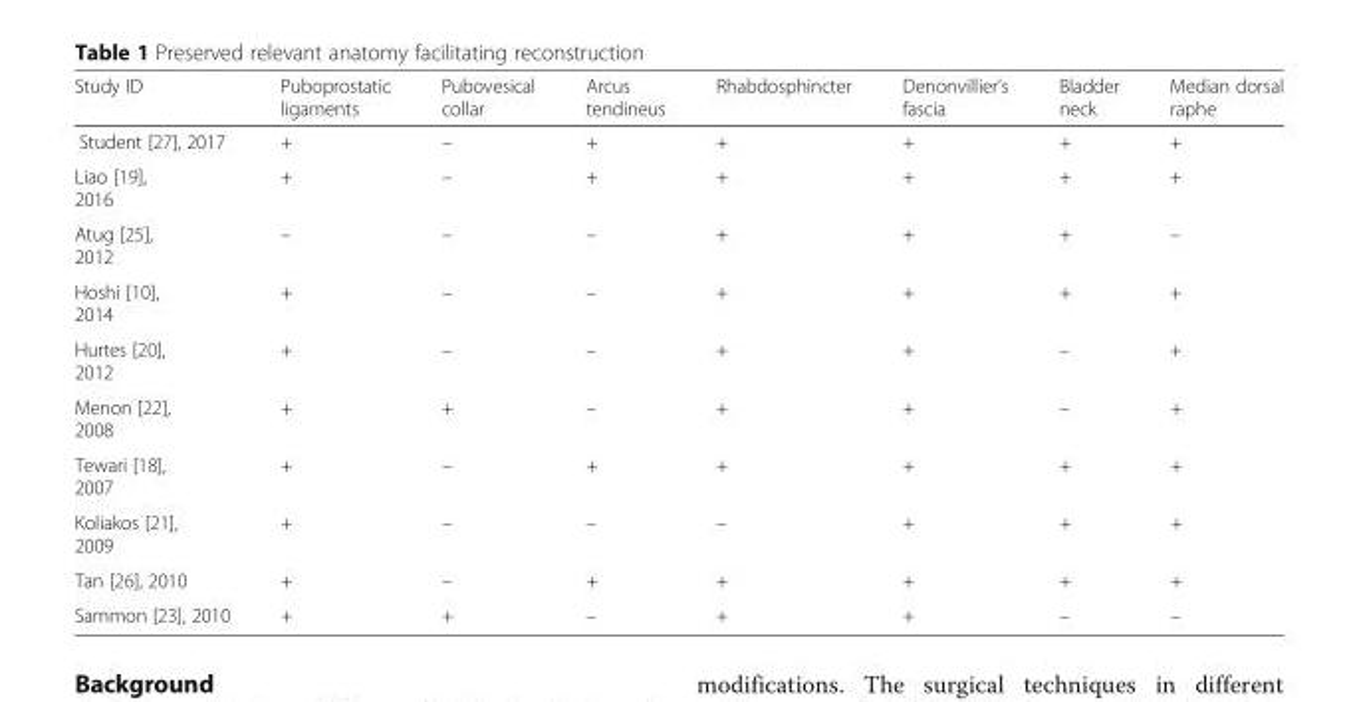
<table><thead><tr><td>Study ID</td><td>Puboprostatic ligaments</td><td>Pubovesical collar</td><td>Arcus tendineus</td><td>Rhabdosphincter</td><td>Denonvillier’s fascia</td><td>Bladder neck</td><td>Median dorsal raphe</td></tr></thead><tbody><tr><td>Student [27], 2017</td><td>+</td><td>–</td><td>+</td><td>+</td><td>+</td><td>+</td><td>+</td></tr><tr><td>Liao [19], 2016</td><td>+</td><td>–</td><td>+</td><td>+</td><td>+</td><td>+</td><td>+</td></tr><tr><td>Atug [25], 2012</td><td>–</td><td>–</td><td>–</td><td>+</td><td>+</td><td>+</td><td>–</td></tr><tr><td>Hoshi [10], 2014</td><td>+</td><td>–</td><td>–</td><td>+</td><td>+</td><td>+</td><td>+</td></tr><tr><td>Hurtes [20], 2012</td><td>+</td><td>–</td><td>–</td><td>+</td><td>+</td><td>–</td><td>+</td></tr><tr><td>Menon [22], 2008</td><td>+</td><td>+</td><td>–</td><td>+</td><td>+</td><td>–</td><td>+</td></tr><tr><td>Tewari [18], 2007</td><td>+</td><td>–</td><td>+</td><td>+</td><td>+</td><td>+</td><td>+</td></tr><tr><td>Koliakos [21], 2009</td><td>+</td><td>–</td><td>–</td><td>–</td><td>+</td><td>+</td><td>+</td></tr><tr><td>Tan [26], 2010</td><td>+</td><td>–</td><td>+</td><td>+</td><td>+</td><td>+</td><td>+</td></tr><tr><td>Sammon [23], 2010</td><td>+</td><td>+</td><td>–</td><td>+</td><td>+</td><td>–</td><td>–</td></tr></tbody></table>